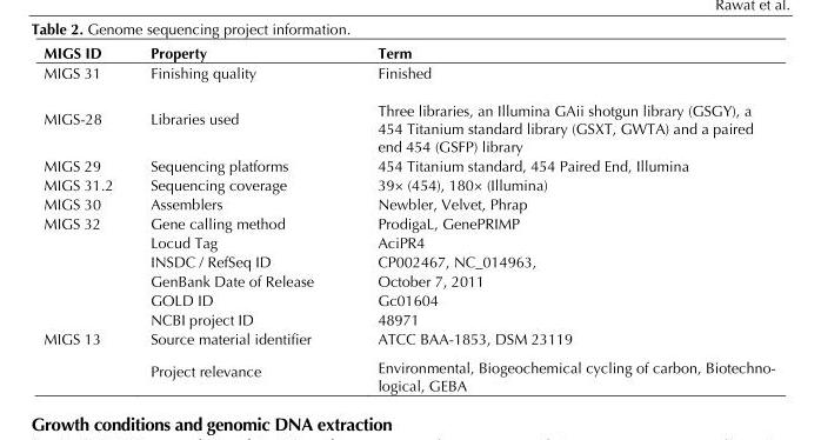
<table><thead><tr><td>MIGS ID</td><td>Property</td><td>Term</td></tr></thead><tbody><tr><td>MIGS 31</td><td>Finishing quality</td><td>Finished</td></tr><tr><td>MIGS-28</td><td>Libraries used</td><td>Three libraries, an Illumina GAii shotgun library (GSGY), a 454 Titanium standard library (GSXT, GWTA) and a paired end 454 (GSFP) library</td></tr><tr><td>MIGS 29</td><td>Sequencing platforms</td><td>454 Titanium standard, 454 Paired End, Illumina</td></tr><tr><td>MIGS 31.2</td><td>Sequencing coverage</td><td>39× (454), 180× (Illumina)</td></tr><tr><td>MIGS 30</td><td>Assemblers</td><td>Newbler, Velvet, Phrap</td></tr><tr><td rowspan="6">MIGS 32</td><td>Gene calling method</td><td>ProdigaL, GenePRIMP</td></tr><tr><td>Locud Tag</td><td>AciPR4</td></tr><tr><td>INSDC / RefSeq ID</td><td>CP002467, NC_014963,</td></tr><tr><td>GenBank Date of Release</td><td>October 7, 2011</td></tr><tr><td>GOLD ID</td><td>Gc01604</td></tr><tr><td>NCBI project ID</td><td>48971</td></tr><tr><td rowspan="2">MIGS 13</td><td>Source material identifier</td><td>ATCC BAA-1853, DSM 23119</td></tr><tr><td>Project relevance</td><td>Environmental, Biogeochemical cycling of carbon, Biotechno- logical, GEBA</td></tr></tbody></table>